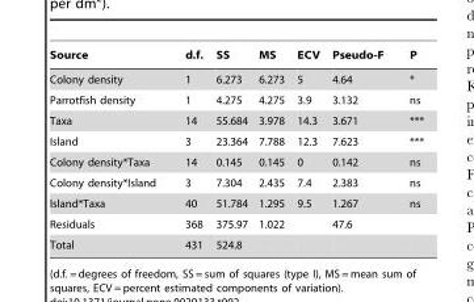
<table><thead><tr><td>Source</td><td>d.f.</td><td>SS</td><td>MS</td><td>ECV</td><td>Pseudo-F</td><td>P</td></tr></thead><tbody><tr><td>Colony density</td><td>1</td><td>6.273</td><td>6.273</td><td>5</td><td>4.64</td><td>*</td></tr><tr><td>Parrotfish density</td><td>1</td><td>4.275</td><td>4.275</td><td>3.9</td><td>3.132</td><td>ns</td></tr><tr><td>Taxa</td><td>14</td><td>55.684</td><td>3.978</td><td>14.3</td><td>3.671</td><td>***</td></tr><tr><td>Island</td><td>3</td><td>23.364</td><td>7.788</td><td>12.3</td><td>7.623</td><td>***</td></tr><tr><td>Colony density*Taxa</td><td>14</td><td>0.145</td><td>0.145</td><td>0</td><td>0.142</td><td>ns</td></tr><tr><td>Colony density*Island</td><td>3</td><td>7.304</td><td>2.435</td><td>7.4</td><td>2.383</td><td>ns</td></tr><tr><td>Island*Taxa</td><td>40</td><td>51.784</td><td>1.295</td><td>9.5</td><td>1.267</td><td>ns</td></tr><tr><td>Residuals</td><td>368</td><td>375.97</td><td>1.022</td><td></td><td>47.6</td><td></td></tr><tr><td>Total</td><td>431</td><td>524.8</td><td></td><td></td><td></td><td></td></tr></tbody></table>